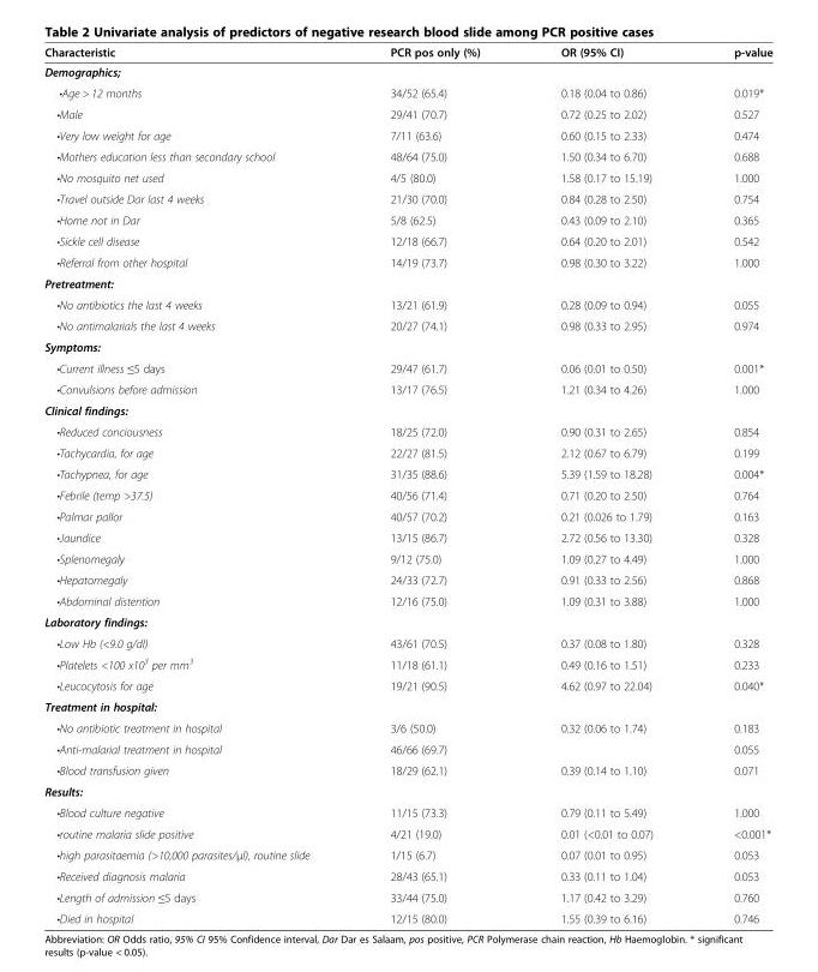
<table><thead><tr><td>Characteristic</td><td>PCR pos only (%)</td><td>OR (95% CI)</td><td>p-value</td></tr></thead><tbody><tr><td colspan="4">Demographics;</td></tr><tr><td>•Age &gt; 12 months</td><td>34/52 (65.4)</td><td>0.18 (0.04 to 0.86)</td><td>0.019*</td></tr><tr><td>•Male</td><td>29/41 (70.7)</td><td>0.72 (0.25 to 2.02)</td><td>0.527</td></tr><tr><td>•Very low weight for age</td><td>7/11 (63.6)</td><td>0.60 (0.15 to 2.33)</td><td>0.474</td></tr><tr><td>•Mothers education less than secondary school</td><td>48/64 (75.0)</td><td>1.50 (0.34 to 6.70)</td><td>0.688</td></tr><tr><td>•No mosquito net used</td><td>4/5 (80.0)</td><td>1.58 (0.17 to 15.19)</td><td>1.000</td></tr><tr><td>•Travel outside Dar last 4 weeks</td><td>21/30 (70.0)</td><td>0.84 (0.28 to 2.50)</td><td>0.754</td></tr><tr><td>•Home not in Dar</td><td>5/8 (62.5)</td><td>0.43 (0.09 to 2.10)</td><td>0.365</td></tr><tr><td>•Sickle cell disease</td><td>12/18 (66.7)</td><td>0.64 (0.20 to 2.01)</td><td>0.542</td></tr><tr><td>•Referral from other hospital</td><td>14/19 (73.7)</td><td>0.98 (0.30 to 3.22)</td><td>1.000</td></tr><tr><td colspan="4">Pretreatment:</td></tr><tr><td>•No antibiotics the last 4 weeks</td><td>13/21 (61.9)</td><td>0.28 (0.09 to 0.94)</td><td>0.055</td></tr><tr><td>•No antimalarials the last 4 weeks</td><td>20/27 (74.1)</td><td>0.98 (0.33 to 2.95)</td><td>0.974</td></tr><tr><td colspan="4">Symptoms:</td></tr><tr><td>•Current illness ≤5 days</td><td>29/47 (61.7)</td><td>0.06 (0.01 to 0.50)</td><td>0.001*</td></tr><tr><td>•Convulsions before admission</td><td>13/17 (76.5)</td><td>1.21 (0.34 to 4.26)</td><td>1.000</td></tr><tr><td colspan="4">Clinical findings:</td></tr><tr><td>•Reduced conciousness</td><td>18/25 (72.0)</td><td>0.90 (0.31 to 2.65)</td><td>0.854</td></tr><tr><td>•Tachycardia, for age</td><td>22/27 (81.5)</td><td>2.12 (0.67 to 6.79)</td><td>0.199</td></tr><tr><td>•Tachypnea, for age</td><td>31/35 (88.6)</td><td>5.39 (1.59 to 18.28)</td><td>0.004*</td></tr><tr><td>•Febrile (temp &gt;37.5)</td><td>40/56 (71.4)</td><td>0.71 (0.20 to 2.50)</td><td>0.764</td></tr><tr><td>•Palmar pallor</td><td>40/57 (70.2)</td><td>0.21 (0.026 to 1.79)</td><td>0.163</td></tr><tr><td>•Jaundice</td><td>13/15 (86.7)</td><td>2.72 (0.56 to 13.30)</td><td>0.328</td></tr><tr><td>•Splenomegaly</td><td>9/12 (75.0)</td><td>1.09 (0.27 to 4.49)</td><td>1.000</td></tr><tr><td>•Hepatomegaly</td><td>24/33 (72.7)</td><td>0.91 (0.33 to 2.56)</td><td>0.868</td></tr><tr><td>•Abdominal distention</td><td>12/16 (75.0)</td><td>1.09 (0.31 to 3.88)</td><td>1.000</td></tr><tr><td colspan="4">Laboratory findings:</td></tr><tr><td>•Low Hb (&lt;9.0 g/dl)</td><td>43/61 (70.5)</td><td>0.37 (0.08 to 1.80)</td><td>0.328</td></tr><tr><td>•Platelets &lt;100 x10<sup>3</sup> per mm<sup>3</sup></td><td>11/18 (61.1)</td><td>0.49 (0.16 to 1.51)</td><td>0.233</td></tr><tr><td>•Leucocytosis for age</td><td>19/21 (90.5)</td><td>4.62 (0.97 to 22.04)</td><td>0.040*</td></tr><tr><td colspan="4">Treatment in hospital:</td></tr><tr><td>•No antibiotic treatment in hospital</td><td>3/6 (50.0)</td><td>0.32 (0.06 to 1.74)</td><td>0.183</td></tr><tr><td>•Anti-malarial treatment in hospital</td><td>46/66 (69.7)</td><td></td><td>0.055</td></tr><tr><td>•Blood transfusion given</td><td>18/29 (62.1)</td><td>0.39 (0.14 to 1.10)</td><td>0.071</td></tr><tr><td colspan="4">Results:</td></tr><tr><td>•Blood culture negative</td><td>11/15 (73.3)</td><td>0.79 (0.11 to 5.49)</td><td>1.000</td></tr><tr><td>•routine malaria slide positive</td><td>4/21 (19.0)</td><td>0.01 (&lt;0.01 to 0.07)</td><td>&lt;0.001*</td></tr><tr><td>•high parasitaemia (&gt;10,000 parasites/μl), routine slide</td><td>1/15 (6.7)</td><td>0.07 (0.01 to 0.95)</td><td>0.053</td></tr><tr><td>•Received diagnosis malaria</td><td>28/43 (65.1)</td><td>0.33 (0.11 to 1.04)</td><td>0.053</td></tr><tr><td>•Length of admission ≤5 days</td><td>33/44 (75.0)</td><td>1.17 (0.42 to 3.29)</td><td>0.760</td></tr><tr><td>•Died in hospital</td><td>12/15 (80.0)</td><td>1.55 (0.39 to 6.16)</td><td>0.746</td></tr></tbody></table>